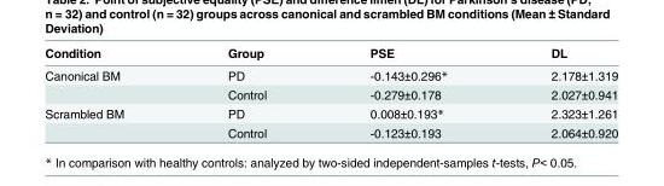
<table><thead><tr><td>Condition</td><td>Group</td><td>PSE</td><td>DL</td></tr></thead><tbody><tr><td rowspan="2">Canonical BM</td><td>PD</td><td>-0.143±0.296*</td><td>2.178±1.319</td></tr><tr><td>Control</td><td>-0.279±0.178</td><td>2.027±0.941</td></tr><tr><td rowspan="2">Scrambled BM</td><td>PD</td><td>0.008±0.193*</td><td>2.323±1.261</td></tr><tr><td>Control</td><td>-0.123±0.193</td><td>2.064±0.920</td></tr></tbody></table>